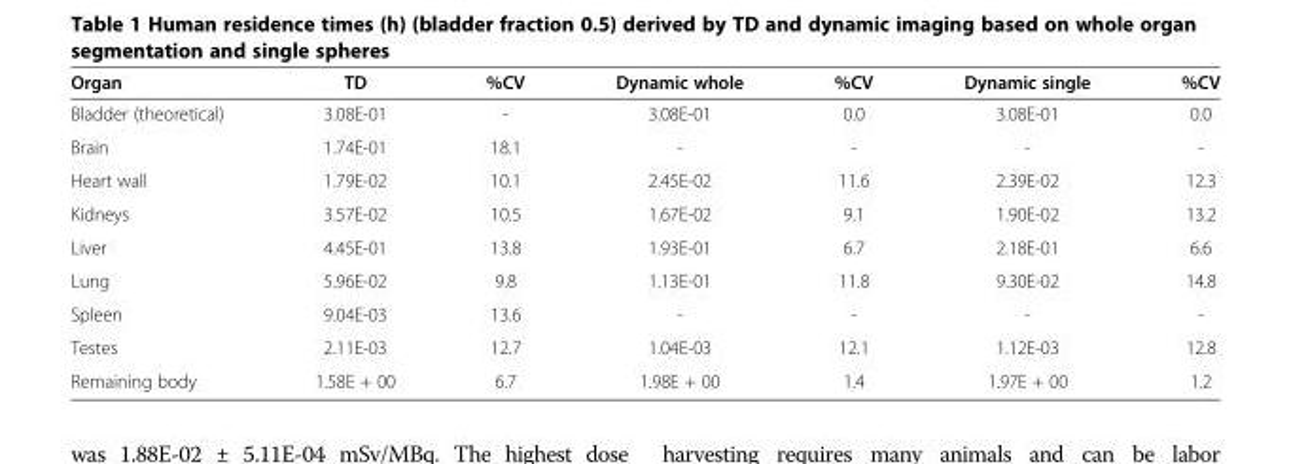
<table><thead><tr><td>Organ</td><td>TD</td><td>%CV</td><td>Dynamic whole</td><td>%CV</td><td>Dynamic single</td><td>%CV</td></tr></thead><tbody><tr><td>Bladder (theoretical)</td><td>3.08E-01</td><td>-</td><td>3.08E-01</td><td>0.0</td><td>3.08E-01</td><td>0.0</td></tr><tr><td>Brain</td><td>1.74E-01</td><td>18.1</td><td>-</td><td>-</td><td>-</td><td>-</td></tr><tr><td>Heart wall</td><td>1.79E-02</td><td>10.1</td><td>2.45E-02</td><td>11.6</td><td>2.39E-02</td><td>12.3</td></tr><tr><td>Kidneys</td><td>3.57E-02</td><td>10.5</td><td>1.67E-02</td><td>9.1</td><td>1.90E-02</td><td>13.2</td></tr><tr><td>Liver</td><td>4.45E-01</td><td>13.8</td><td>1.93E-01</td><td>6.7</td><td>2.18E-01</td><td>6.6</td></tr><tr><td>Lung</td><td>5.96E-02</td><td>9.8</td><td>1.13E-01</td><td>11.8</td><td>9.30E-02</td><td>14.8</td></tr><tr><td>Spleen</td><td>9.04E-03</td><td>13.6</td><td>-</td><td>-</td><td>-</td><td>-</td></tr><tr><td>Testes</td><td>2.11E-03</td><td>12.7</td><td>1.04E-03</td><td>12.1</td><td>1.12E-03</td><td>12.8</td></tr><tr><td>Remaining body</td><td>1.58E + 00</td><td>6.7</td><td>1.98E + 00</td><td>1.4</td><td>1.97E + 00</td><td>1.2</td></tr></tbody></table>